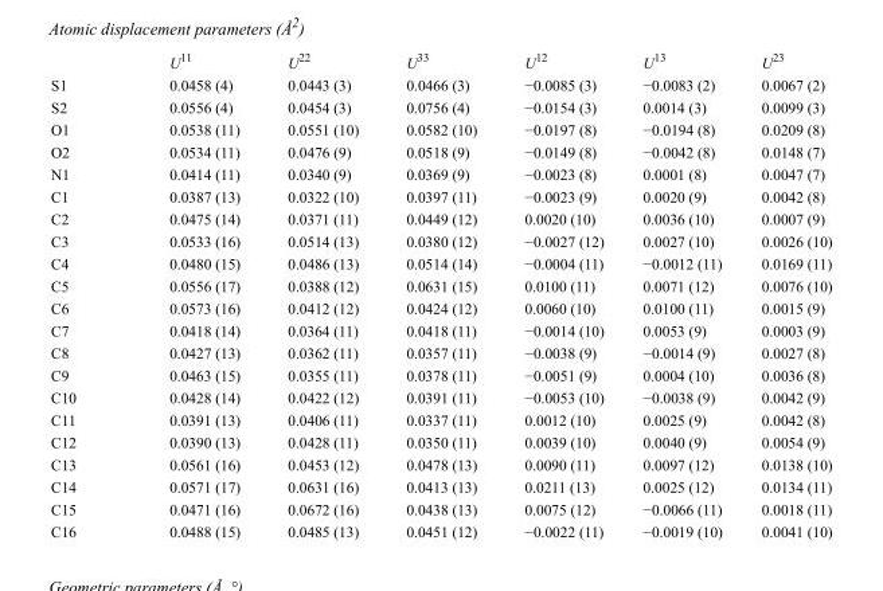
<table><thead><tr><td></td><td>U<sup>11</sup></td><td>U<sup>22</sup></td><td>U<sup>33</sup></td><td>U<sup>12</sup></td><td>U<sup>13</sup></td><td>U<sup>23</sup></td></tr></thead><tbody><tr><td>S1</td><td>0.0458 (4)</td><td>0.0443 (3)</td><td>0.0466 (3)</td><td>−0.0085 (3)</td><td>−0.0083 (2)</td><td>0.0067 (2)</td></tr><tr><td>S2</td><td>0.0556 (4)</td><td>0.0454 (3)</td><td>0.0756 (4)</td><td>−0.0154 (3)</td><td>0.0014 (3)</td><td>0.0099 (3)</td></tr><tr><td>O1</td><td>0.0538 (11)</td><td>0.0551 (10)</td><td>0.0582 (10)</td><td>−0.0197 (8)</td><td>−0.0194 (8)</td><td>0.0209 (8)</td></tr><tr><td>O2</td><td>0.0534 (11)</td><td>0.0476 (9)</td><td>0.0518 (9)</td><td>−0.0149 (8)</td><td>−0.0042 (8)</td><td>0.0148 (7)</td></tr><tr><td>N1</td><td>0.0414 (11)</td><td>0.0340 (9)</td><td>0.0369 (9)</td><td>−0.0023 (8)</td><td>0.0001 (8)</td><td>0.0047 (7)</td></tr><tr><td>C1</td><td>0.0387 (13)</td><td>0.0322 (10)</td><td>0.0397 (11)</td><td>−0.0023 (9)</td><td>0.0020 (9)</td><td>0.0042 (8)</td></tr><tr><td>C2</td><td>0.0475 (14)</td><td>0.0371 (11)</td><td>0.0449 (12)</td><td>0.0020 (10)</td><td>0.0036 (10)</td><td>0.0007 (9)</td></tr><tr><td>C3</td><td>0.0533 (16)</td><td>0.0514 (13)</td><td>0.0380 (12)</td><td>−0.0027 (12)</td><td>0.0027 (10)</td><td>0.0026 (10)</td></tr><tr><td>C4</td><td>0.0480 (15)</td><td>0.0486 (13)</td><td>0.0514 (14)</td><td>−0.0004 (11)</td><td>−0.0012 (11)</td><td>0.0169 (11)</td></tr><tr><td>C5</td><td>0.0556 (17)</td><td>0.0388 (12)</td><td>0.0631 (15)</td><td>0.0100 (11)</td><td>0.0071 (12)</td><td>0.0076 (10)</td></tr><tr><td>C6</td><td>0.0573 (16)</td><td>0.0412 (12)</td><td>0.0424 (12)</td><td>0.0060 (10)</td><td>0.0100 (11)</td><td>0.0015 (9)</td></tr><tr><td>C7</td><td>0.0418 (14)</td><td>0.0364 (11)</td><td>0.0418 (11)</td><td>−0.0014 (10)</td><td>0.0053 (9)</td><td>0.0003 (9)</td></tr><tr><td>C8</td><td>0.0427 (13)</td><td>0.0362 (11)</td><td>0.0357 (11)</td><td>−0.0038 (9)</td><td>−0.0014 (9)</td><td>0.0027 (8)</td></tr><tr><td>C9</td><td>0.0463 (15)</td><td>0.0355 (11)</td><td>0.0378 (11)</td><td>−0.0051 (9)</td><td>0.0004 (10)</td><td>0.0036 (8)</td></tr><tr><td>C10</td><td>0.0428 (14)</td><td>0.0422 (12)</td><td>0.0391 (11)</td><td>−0.0053 (10)</td><td>−0.0038 (9)</td><td>0.0042 (9)</td></tr><tr><td>C11</td><td>0.0391 (13)</td><td>0.0406 (11)</td><td>0.0337 (11)</td><td>0.0012 (10)</td><td>0.0025 (9)</td><td>0.0042 (8)</td></tr><tr><td>C12</td><td>0.0390 (13)</td><td>0.0428 (11)</td><td>0.0350 (11)</td><td>0.0039 (10)</td><td>0.0040 (9)</td><td>0.0054 (9)</td></tr><tr><td>C13</td><td>0.0561 (16)</td><td>0.0453 (12)</td><td>0.0478 (13)</td><td>0.0090 (11)</td><td>0.0097 (12)</td><td>0.0138 (10)</td></tr><tr><td>C14</td><td>0.0571 (17)</td><td>0.0631 (16)</td><td>0.0413 (13)</td><td>0.0211 (13)</td><td>0.0025 (12)</td><td>0.0134 (11)</td></tr><tr><td>C15</td><td>0.0471 (16)</td><td>0.0672 (16)</td><td>0.0438 (13)</td><td>0.0075 (12)</td><td>−0.0066 (11)</td><td>0.0018 (11)</td></tr><tr><td>C16</td><td>0.0488 (15)</td><td>0.0485 (13)</td><td>0.0451 (12)</td><td>−0.0022 (11)</td><td>−0.0019 (10)</td><td>0.0041 (10)</td></tr></tbody></table>